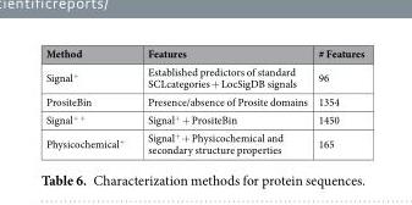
<table><thead><tr><td>Method</td><td>Features</td><td># Features</td></tr></thead><tbody><tr><td>Signal<sup>+</sup></td><td>Established predictors of standard SCLcategories + LocSigDB signals</td><td>96</td></tr><tr><td>PrositeBin</td><td>Presence/absence of Prosite domains</td><td>1354</td></tr><tr><td>Signal<sup>+ +</sup></td><td>Signal<sup>+</sup> + PrositeBin</td><td>1450</td></tr><tr><td>Physicochemical<sup>+</sup></td><td>Signal<sup>+</sup> + Physicochemical and secondary structure properties</td><td>165</td></tr></tbody></table>